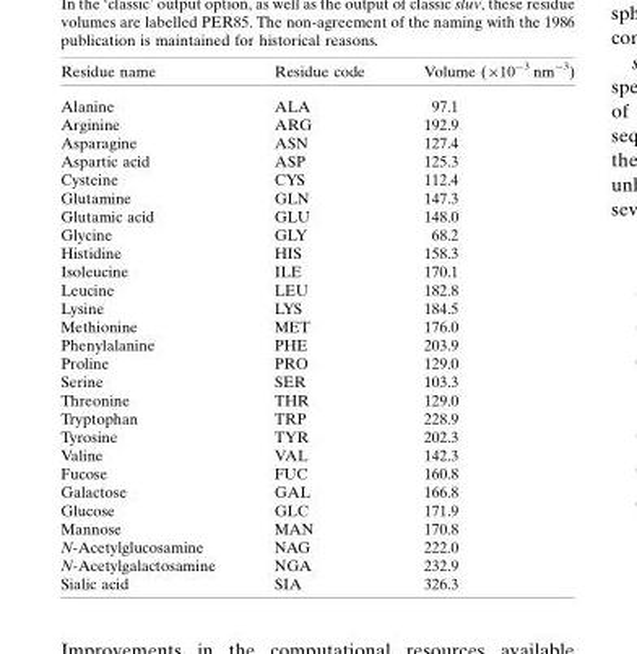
<table><thead><tr><td>Residue name</td><td>Residue code</td><td>Volume (�10�3 nm�3)</td></tr></thead><tbody><tr><td>Alanine</td><td>ALA</td><td>97.1</td></tr><tr><td>Arginine</td><td>ARG</td><td>192.9</td></tr><tr><td>Asparagine</td><td>ASN</td><td>127.4</td></tr><tr><td>Aspartic acid</td><td>ASP</td><td>125.3</td></tr><tr><td>Cysteine</td><td>CYS</td><td>112.4</td></tr><tr><td>Glutamine</td><td>GLN</td><td>147.3</td></tr><tr><td>Glutamic acid</td><td>GLU</td><td>148.0</td></tr><tr><td>Glycine</td><td>GLY</td><td>68.2</td></tr><tr><td>Histidine</td><td>HIS</td><td>158.3</td></tr><tr><td>Isoleucine</td><td>ILE</td><td>170.1</td></tr><tr><td>Leucine</td><td>LEU</td><td>182.8</td></tr><tr><td>Lysine</td><td>LYS</td><td>184.5</td></tr><tr><td>Methionine</td><td>MET</td><td>176.0</td></tr><tr><td>Phenylalanine</td><td>PHE</td><td>203.9</td></tr><tr><td>Proline</td><td>PRO</td><td>129.0</td></tr><tr><td>Serine</td><td>SER</td><td>103.3</td></tr><tr><td>Threonine</td><td>THR</td><td>129.0</td></tr><tr><td>Tryptophan</td><td>TRP</td><td>228.9</td></tr><tr><td>Tyrosine</td><td>TYR</td><td>202.3</td></tr><tr><td>Valine</td><td>VAL</td><td>142.3</td></tr><tr><td>Fucose</td><td>FUC</td><td>160.8</td></tr><tr><td>Galactose</td><td>GAL</td><td>166.8</td></tr><tr><td>Glucose</td><td>GLC</td><td>171.9</td></tr><tr><td>Mannose</td><td>MAN</td><td>170.8</td></tr><tr><td>N-Acetylglucosamine</td><td>NAG</td><td>222.0</td></tr><tr><td>N-Acetylgalactosamine</td><td>NGA</td><td>232.9</td></tr><tr><td>Sialic acid</td><td>SIA</td><td>326.3</td></tr></tbody></table>